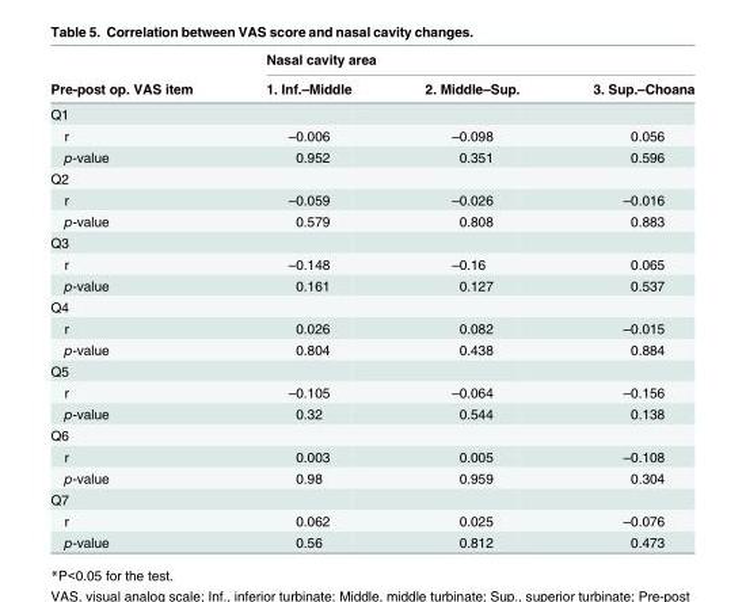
<table><thead><tr><td rowspan="2">Pre-post op. VAS item</td><td colspan="3">Nasal cavity area</td></tr><tr><td>1. Inf.–Middle</td><td>2. Middle–Sup.</td><td>3. Sup.–Choana</td></tr></thead><tbody><tr><td colspan="4">Q1</td></tr><tr><td>r</td><td>–0.006</td><td>–0.098</td><td>0.056</td></tr><tr><td>p-value</td><td>0.952</td><td>0.351</td><td>0.596</td></tr><tr><td colspan="4">Q2</td></tr><tr><td>r</td><td>–0.059</td><td>–0.026</td><td>–0.016</td></tr><tr><td>p-value</td><td>0.579</td><td>0.808</td><td>0.883</td></tr><tr><td colspan="4">Q3</td></tr><tr><td>r</td><td>–0.148</td><td>–0.16</td><td>0.065</td></tr><tr><td>p-value</td><td>0.161</td><td>0.127</td><td>0.537</td></tr><tr><td colspan="4">Q4</td></tr><tr><td>r</td><td>0.026</td><td>0.082</td><td>–0.015</td></tr><tr><td>p-value</td><td>0.804</td><td>0.438</td><td>0.884</td></tr><tr><td colspan="4">Q5</td></tr><tr><td>r</td><td>–0.105</td><td>–0.064</td><td>–0.156</td></tr><tr><td>p-value</td><td>0.32</td><td>0.544</td><td>0.138</td></tr><tr><td colspan="4">Q6</td></tr><tr><td>r</td><td>0.003</td><td>0.005</td><td>–0.108</td></tr><tr><td>p-value</td><td>0.98</td><td>0.959</td><td>0.304</td></tr><tr><td colspan="4">Q7</td></tr><tr><td>r</td><td>0.062</td><td>0.025</td><td>–0.076</td></tr><tr><td>p-value</td><td>0.56</td><td>0.812</td><td>0.473</td></tr></tbody></table>